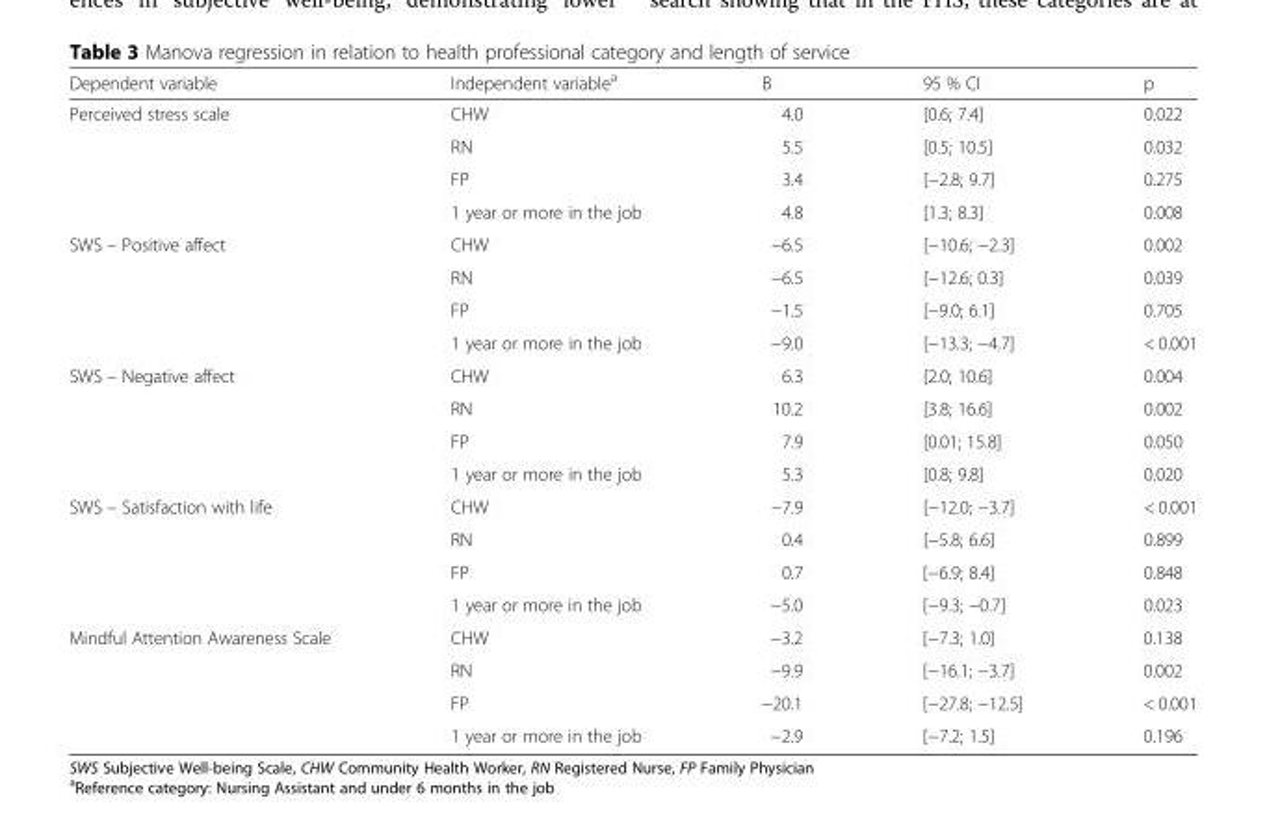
<table><thead><tr><td>Dependent variable</td><td>Independent variable<sup>a</sup></td><td>Β</td><td>95 % CI</td><td>p</td></tr></thead><tbody><tr><td rowspan="4">Perceived stress scale</td><td>CHW</td><td>4.0</td><td>[0.6; 7.4]</td><td>0.022</td></tr><tr><td>RN</td><td>5.5</td><td>[0.5; 10.5]</td><td>0.032</td></tr><tr><td>FP</td><td>3.4</td><td>[−2.8; 9.7]</td><td>0.275</td></tr><tr><td>1 year or more in the job</td><td>4.8</td><td>[1.3; 8.3]</td><td>0.008</td></tr><tr><td rowspan="4">SWS – Positive affect</td><td>CHW</td><td>−6.5</td><td>[−10.6; −2.3]</td><td>0.002</td></tr><tr><td>RN</td><td>−6.5</td><td>[−12.6; 0.3]</td><td>0.039</td></tr><tr><td>FP</td><td>−1.5</td><td>[−9.0; 6.1]</td><td>0.705</td></tr><tr><td>1 year or more in the job</td><td>−9.0</td><td>[−13.3; −4.7]</td><td>&lt; 0.001</td></tr><tr><td rowspan="4">SWS – Negative affect</td><td>CHW</td><td>6.3</td><td>[2.0; 10.6]</td><td>0.004</td></tr><tr><td>RN</td><td>10.2</td><td>[3.8; 16.6]</td><td>0.002</td></tr><tr><td>FP</td><td>7.9</td><td>[0.01; 15.8]</td><td>0.050</td></tr><tr><td>1 year or more in the job</td><td>5.3</td><td>[0.8; 9.8]</td><td>0.020</td></tr><tr><td rowspan="4">SWS – Satisfaction with life</td><td>CHW</td><td>−7.9</td><td>[−12.0; −3.7]</td><td>&lt; 0.001</td></tr><tr><td>RN</td><td>0.4</td><td>[−5.8; 6.6]</td><td>0.899</td></tr><tr><td>FP</td><td>0.7</td><td>[−6.9; 8.4]</td><td>0.848</td></tr><tr><td>1 year or more in the job</td><td>−5.0</td><td>[−9.3; −0.7]</td><td>0.023</td></tr><tr><td rowspan="4">Mindful Attention Awareness Scale</td><td>CHW</td><td>−3.2</td><td>[−7.3; 1.0]</td><td>0.138</td></tr><tr><td>RN</td><td>−9.9</td><td>[−16.1; −3.7]</td><td>0.002</td></tr><tr><td>FP</td><td>−20.1</td><td>[−27.8; −12.5]</td><td>&lt; 0.001</td></tr><tr><td>1 year or more in the job</td><td>−2.9</td><td>[−7.2; 1.5]</td><td>0.196</td></tr></tbody></table>